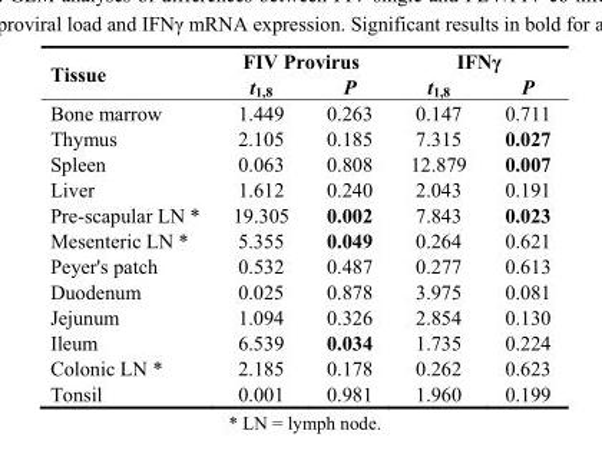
<table><thead><tr><td rowspan="2">Tissue</td><td colspan="2">FIV Provirus</td><td colspan="2">IFNγ</td></tr><tr><td>t<sub>1,8</sub></td><td>P</td><td>t<sub>1,8</sub></td><td>P</td></tr></thead><tbody><tr><td>Bone marrow</td><td>1.449</td><td>0.263</td><td>0.147</td><td>0.711</td></tr><tr><td>Thymus</td><td>2.105</td><td>0.185</td><td>7.315</td><td>0.027</td></tr><tr><td>Spleen</td><td>0.063</td><td>0.808</td><td>12.879</td><td>0.007</td></tr><tr><td>Liver</td><td>1.612</td><td>0.240</td><td>2.043</td><td>0.191</td></tr><tr><td>Pre-scapular LN *</td><td>19.305</td><td>0.002</td><td>7.843</td><td>0.023</td></tr><tr><td>Mesenteric LN *</td><td>5.355</td><td>0.049</td><td>0.264</td><td>0.621</td></tr><tr><td>Peyer&#x27;s patch</td><td>0.532</td><td>0.487</td><td>0.277</td><td>0.613</td></tr><tr><td>Duodenum</td><td>0.025</td><td>0.878</td><td>3.975</td><td>0.081</td></tr><tr><td>Jejunum</td><td>1.094</td><td>0.326</td><td>2.854</td><td>0.130</td></tr><tr><td>Ileum</td><td>6.539</td><td>0.034</td><td>1.735</td><td>0.224</td></tr><tr><td>Colonic LN *</td><td>2.185</td><td>0.178</td><td>0.262</td><td>0.623</td></tr><tr><td>Tonsil</td><td>0.001</td><td>0.981</td><td>1.960</td><td>0.199</td></tr></tbody></table>